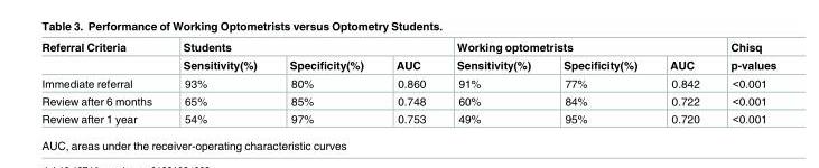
<table><thead><tr><td rowspan="2">Referral Criteria</td><td colspan="3">Students</td><td colspan="3">Working optometrists</td><td rowspan="2">Chisq p-values</td></tr><tr><td>Sensitivity(%)</td><td>Specificity(%)</td><td>AUC</td><td>Sensitivity(%)</td><td>Specificity(%)</td><td>AUC</td></tr></thead><tbody><tr><td>Immediate referral</td><td>93%</td><td>80%</td><td>0.860</td><td>91%</td><td>77%</td><td>0.842</td><td>&lt;0.001</td></tr><tr><td>Review after 6 months</td><td>65%</td><td>85%</td><td>0.748</td><td>60%</td><td>84%</td><td>0.722</td><td>&lt;0.001</td></tr><tr><td>Review after 1 year</td><td>54%</td><td>97%</td><td>0.753</td><td>49%</td><td>95%</td><td>0.720</td><td>&lt;0.001</td></tr></tbody></table>